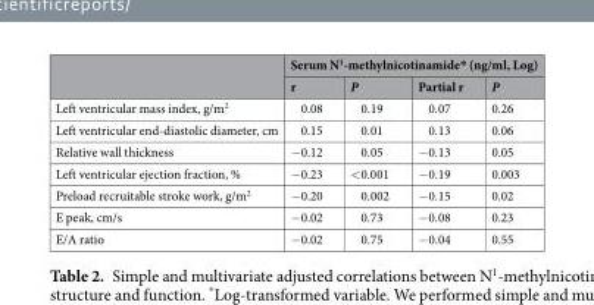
<table><thead><tr><td rowspan="2"></td><td colspan="4">Serum N<sup>1</sup>-methylnicotinamide* (ng/ml, Log)</td></tr><tr><td>r</td><td>P</td><td>Partial r</td><td>P</td></tr></thead><tbody><tr><td>Left ventricular mass index, g/m<sup>2</sup></td><td>0.08</td><td>0.19</td><td>0.07</td><td>0.26</td></tr><tr><td>Left ventricular end-diastolic diameter, cm</td><td>0.15</td><td>0.01</td><td>0.13</td><td>0.06</td></tr><tr><td>Relative wall thickness</td><td>−0.12</td><td>0.05</td><td>−0.13</td><td>0.05</td></tr><tr><td>Left ventricular ejection fraction, %</td><td>−0.23</td><td>&lt;0.001</td><td>−0.19</td><td>0.003</td></tr><tr><td>Preload recruitable stroke work, g/m<sup>2</sup></td><td>−0.20</td><td>0.002</td><td>−0.15</td><td>0.02</td></tr><tr><td>E peak, cm/s</td><td>−0.02</td><td>0.73</td><td>−0.08</td><td>0.23</td></tr><tr><td>E/A ratio</td><td>−0.02</td><td>0.75</td><td>−0.04</td><td>0.55</td></tr></tbody></table>